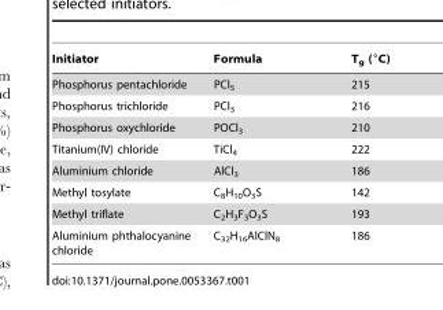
<table><thead><tr><td>Initiator</td><td>Formula</td><td>T<sub>g</sub> (°C)</td></tr></thead><tbody><tr><td>Phosphorus pentachloride</td><td>PCl<sub>5</sub></td><td>215</td></tr><tr><td>Phosphorus trichloride</td><td>PCl<sub>3</sub></td><td>216</td></tr><tr><td>Phosphorus oxychloride</td><td>POCl<sub>3</sub></td><td>210</td></tr><tr><td>Titanium(IV) chloride</td><td>TiCl<sub>4</sub></td><td>222</td></tr><tr><td>Aluminium chloride</td><td>AlCl<sub>3</sub></td><td>186</td></tr><tr><td>Methyl tosylate</td><td>C<sub>8</sub>H<sub>10</sub>O<sub>3</sub>S</td><td>142</td></tr><tr><td>Methyl triflate</td><td>C<sub>2</sub>H<sub>3</sub>F<sub>3</sub>O<sub>3</sub>S</td><td>193</td></tr><tr><td>Aluminium phthalocyanine chloride</td><td>C<sub>32</sub>H<sub>16</sub>AlClN<sub>8</sub></td><td>186</td></tr></tbody></table>